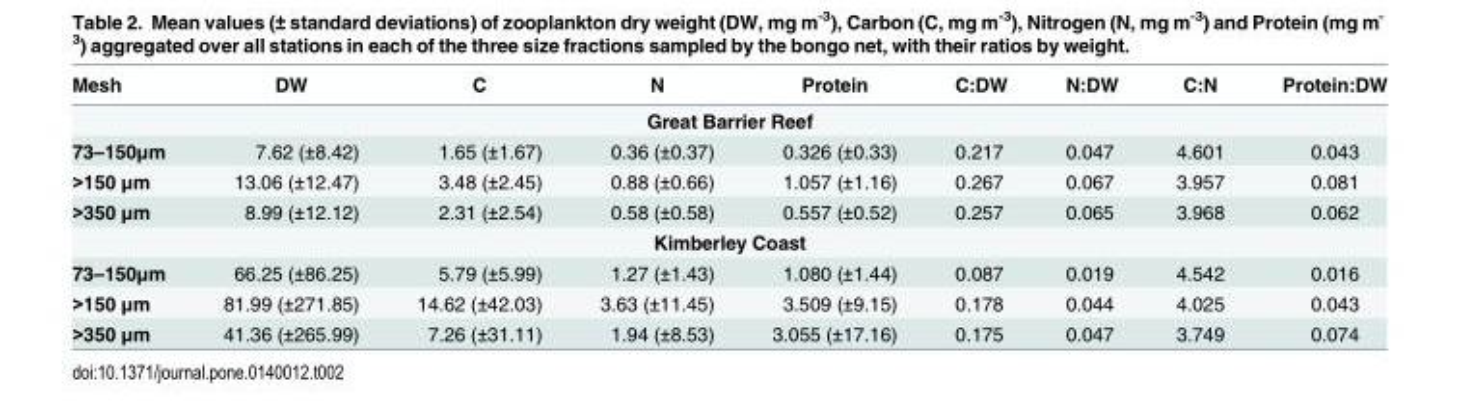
<table><thead><tr><td>Mesh</td><td>DW</td><td>C</td><td>N</td><td>Protein</td><td>C:DW</td><td>N:DW</td><td>C:N</td><td>Protein:DW</td></tr></thead><tbody><tr><td colspan="9">Great Barrier Reef</td></tr><tr><td>73–150μm</td><td>7.62 (±8.42)</td><td>1.65 (±1.67)</td><td>0.36 (±0.37)</td><td>0.326 (±0.33)</td><td>0.217</td><td>0.047</td><td>4.601</td><td>0.043</td></tr><tr><td>&gt;150 μm</td><td>13.06 (±12.47)</td><td>3.48 (±2.45)</td><td>0.88 (±0.66)</td><td>1.057 (±1.16)</td><td>0.267</td><td>0.067</td><td>3.957</td><td>0.081</td></tr><tr><td>&gt;350 μm</td><td>8.99 (±12.12)</td><td>2.31 (±2.54)</td><td>0.58 (±0.58)</td><td>0.557 (±0.52)</td><td>0.257</td><td>0.065</td><td>3.968</td><td>0.062</td></tr><tr><td colspan="9">Kimberley Coast</td></tr><tr><td>73–150μm</td><td>66.25 (±86.25)</td><td>5.79 (±5.99)</td><td>1.27 (±1.43)</td><td>1.080 (±1.44)</td><td>0.087</td><td>0.019</td><td>4.542</td><td>0.016</td></tr><tr><td>&gt;150 μm</td><td>81.99 (±271.85)</td><td>14.62 (±42.03)</td><td>3.63 (±11.45)</td><td>3.509 (±9.15)</td><td>0.178</td><td>0.044</td><td>4.025</td><td>0.043</td></tr><tr><td>&gt;350 μm</td><td>41.36 (±265.99)</td><td>7.26 (±31.11)</td><td>1.94 (±8.53)</td><td>3.055 (±17.16)</td><td>0.175</td><td>0.047</td><td>3.749</td><td>0.074</td></tr></tbody></table>